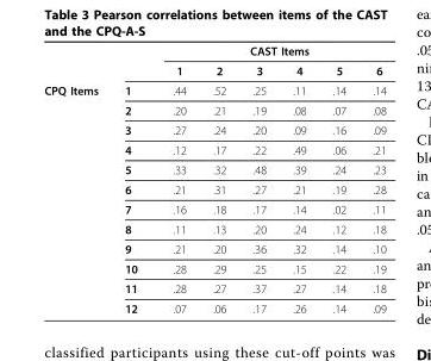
<table><thead><tr><td rowspan="2"></td><td rowspan="2"></td><td colspan="6">CAST Items</td></tr><tr><td>1</td><td>2</td><td>3</td><td>4</td><td>5</td><td>6</td></tr></thead><tbody><tr><td rowspan="12">CPQ Items</td><td>1</td><td>.44</td><td>.52</td><td>.25</td><td>.11</td><td>.14</td><td>.14</td></tr><tr><td>2</td><td>.20</td><td>.21</td><td>.19</td><td>.08</td><td>.07</td><td>.08</td></tr><tr><td>3</td><td>.27</td><td>.24</td><td>.20</td><td>.09</td><td>.16</td><td>.09</td></tr><tr><td>4</td><td>.12</td><td>.17</td><td>.22</td><td>.49</td><td>.06</td><td>.21</td></tr><tr><td>5</td><td>.33</td><td>.32</td><td>.48</td><td>.39</td><td>.24</td><td>.23</td></tr><tr><td>6</td><td>.21</td><td>.31</td><td>.27</td><td>.21</td><td>.19</td><td>.28</td></tr><tr><td>7</td><td>.16</td><td>.18</td><td>.17</td><td>.14</td><td>.02</td><td>.11</td></tr><tr><td>8</td><td>.11</td><td>.13</td><td>.20</td><td>.24</td><td>.12</td><td>.18</td></tr><tr><td>9</td><td>.21</td><td>.20</td><td>.36</td><td>.32</td><td>.14</td><td>.10</td></tr><tr><td>10</td><td>.28</td><td>.29</td><td>.25</td><td>.15</td><td>.22</td><td>.19</td></tr><tr><td>11</td><td>.28</td><td>.27</td><td>.37</td><td>.27</td><td>.14</td><td>.18</td></tr><tr><td>12</td><td>.07</td><td>.06</td><td>.17</td><td>.26</td><td>.14</td><td>.09</td></tr></tbody></table>